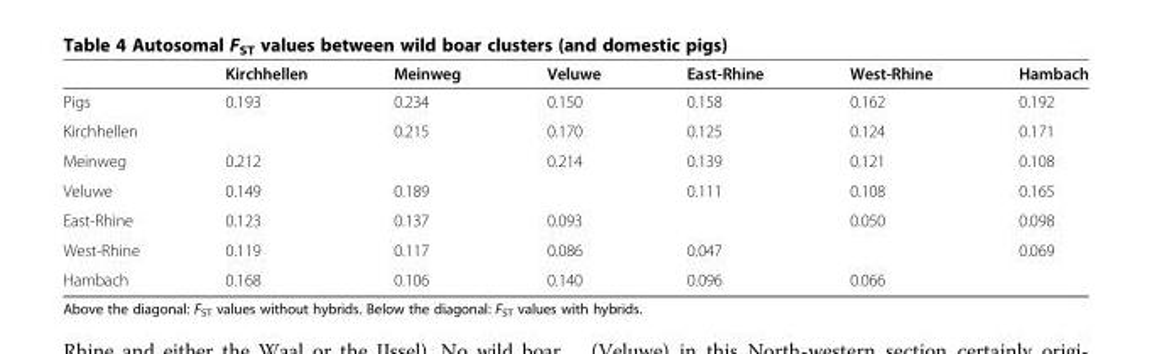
<table><thead><tr><td></td><td>Kirchhellen</td><td>Meinweg</td><td>Veluwe</td><td>East-Rhine</td><td>West-Rhine</td><td>Hambach</td></tr></thead><tbody><tr><td>Pigs</td><td>0.193</td><td>0.234</td><td>0.150</td><td>0.158</td><td>0.162</td><td>0.192</td></tr><tr><td>Kirchhellen</td><td></td><td>0.215</td><td>0.170</td><td>0.125</td><td>0.124</td><td>0.171</td></tr><tr><td>Meinweg</td><td>0.212</td><td></td><td>0.214</td><td>0.139</td><td>0.121</td><td>0.108</td></tr><tr><td>Veluwe</td><td>0.149</td><td>0.189</td><td></td><td>0.111</td><td>0.108</td><td>0.165</td></tr><tr><td>East-Rhine</td><td>0.123</td><td>0.137</td><td>0.093</td><td></td><td>0.050</td><td>0.098</td></tr><tr><td>West-Rhine</td><td>0.119</td><td>0.117</td><td>0.086</td><td>0.047</td><td></td><td>0.069</td></tr><tr><td>Hambach</td><td>0.168</td><td>0.106</td><td>0.140</td><td>0.096</td><td>0.066</td><td></td></tr></tbody></table>